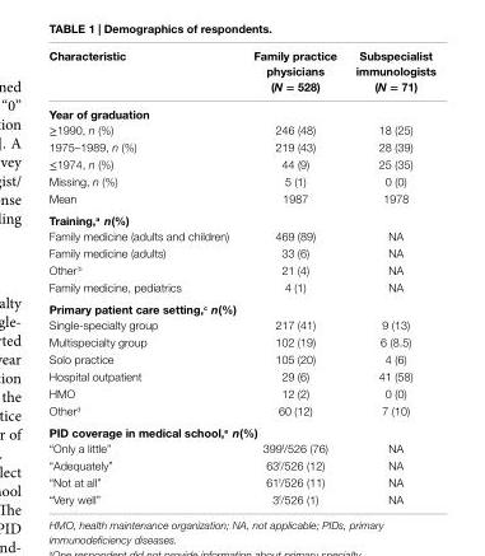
<table><thead><tr><td>characteristic</td><td>Family practice physicians (N = 528)</td><td>subspecialist immunologists (N = 71)</td></tr></thead><tbody><tr><td colspan="3">Year of graduation</td></tr><tr><td>≥1990, n (%)</td><td>246 (48)</td><td>18 (25)</td></tr><tr><td>1975–1989, n (%)</td><td>219 (43)</td><td>28 (39)</td></tr><tr><td>≤1974, n (%)</td><td>44 (9)</td><td>25 (35)</td></tr><tr><td>Missing, n (%)</td><td>5 (1)</td><td>0 (0)</td></tr><tr><td>Mean</td><td>1987</td><td>1978</td></tr><tr><td colspan="3">Training,<sup>a</sup> n(%)</td></tr><tr><td>Family medicine (adults and children)</td><td>469 (89)</td><td>NA</td></tr><tr><td>Family medicine (adults)</td><td>33 (6)</td><td>NA</td></tr><tr><td>Other b</td><td>21 (4)</td><td>NA</td></tr><tr><td>Family medicine, pediatrics</td><td>4 (1)</td><td>NA</td></tr><tr><td colspan="3">Primary patient care setting,<sup>c</sup> n(%)</td></tr><tr><td>Single-specialty group</td><td>217 (41)</td><td>9 (13)</td></tr><tr><td>Multispecialty group</td><td>102 (19)</td><td>6 (8.5)</td></tr><tr><td>Solo practice</td><td>105 (20)</td><td>4 (6)</td></tr><tr><td>Hospital outpatient</td><td>29 (6)</td><td>41 (58)</td></tr><tr><td>HMO</td><td>12 (2)</td><td>0 (0)</td></tr><tr><td>Other<sup>d</sup></td><td>60 (12)</td><td>7 (10)</td></tr><tr><td colspan="3">PiD coverage in medical school,<sup>e</sup> n(%)</td></tr><tr><td>“Only a little”</td><td>399<sup>f</sup>/526 (76)</td><td>NA</td></tr><tr><td>“Adequately”</td><td>63<sup>f</sup>/526 (12)</td><td>NA</td></tr><tr><td>“Not at all”</td><td>61<sup>f</sup>/526 (11)</td><td>NA</td></tr><tr><td>“Very well”</td><td>3<sup>f</sup>/526 (1)</td><td>NA</td></tr></tbody></table>